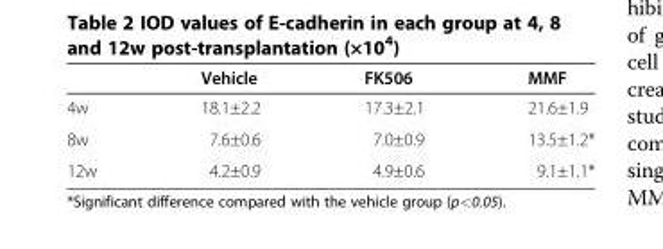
<table><thead><tr><td></td><td>Vehicle</td><td>FK506</td><td>MMF</td></tr></thead><tbody><tr><td>4w</td><td>18.1±2.2</td><td>17.3±2.1</td><td>21.6±1.9</td></tr><tr><td>8w</td><td>7.6±0.6</td><td>7.0±0.9</td><td>13.5±1.2*</td></tr><tr><td>12w</td><td>4.2±0.9</td><td>4.9±0.6</td><td>9.1±1.1*</td></tr></tbody></table>